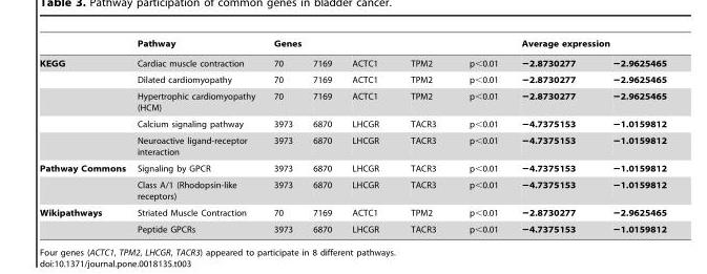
<table><thead><tr><td rowspan="2">KEGG</td><td rowspan="2">Pathway Cardiac muscle contraction</td><td colspan="4">Genes</td><td rowspan="2">p&lt;0.01</td><td rowspan="2">Average expression −2.8730277</td><td rowspan="2">−2.9625465</td></tr><tr><td>70</td><td>7169</td><td>ACTC1</td><td>TPM2</td></tr></thead><tbody><tr><td></td><td>Dilated cardiomyopathy</td><td>70</td><td>7169</td><td>ACTC1</td><td>TPM2</td><td>p&lt;0.01</td><td>−2.8730277</td><td>−2.9625465</td></tr><tr><td></td><td>Hypertrophic cardiomyopathy (HCM)</td><td>70</td><td>7169</td><td>ACTC1</td><td>TPM2</td><td>p&lt;0.01</td><td>−2.8730277</td><td>−2.9625465</td></tr><tr><td></td><td>Calcium signaling pathway</td><td>3973</td><td>6870</td><td>LHCGR</td><td>TACR3</td><td>p&lt;0.01</td><td>−4.7375153</td><td>−1.0159812</td></tr><tr><td></td><td>Neuroactive ligand-receptor interaction</td><td>3973</td><td>6870</td><td>LHCGR</td><td>TACR3</td><td>p&lt;0.01</td><td>−4.7375153</td><td>−1.0159812</td></tr><tr><td rowspan="2">Pathway Commons</td><td>Signaling by GPCR</td><td>3973</td><td>6870</td><td>LHCGR</td><td>TACR3</td><td>p&lt;0.01</td><td>−4.7375153</td><td>−1.0159812</td></tr><tr><td>Class A/1 (Rhodopsin-like receptors)</td><td>3973</td><td>6870</td><td>LHCGR</td><td>TACR3</td><td>p&lt;0.01</td><td>−4.7375153</td><td>−1.0159812</td></tr><tr><td rowspan="2">Wikipathways</td><td>Striated Muscle Contraction</td><td>70</td><td>7169</td><td>ACTC1</td><td>TPM2</td><td>p&lt;0.01</td><td>−2.8730277</td><td>−2.9625465</td></tr><tr><td>Peptide GPCRs</td><td>3973</td><td>6870</td><td>LHCGR</td><td>TACR3</td><td>p&lt;0.01</td><td>−4.7375153</td><td>−1.0159812</td></tr></tbody></table>